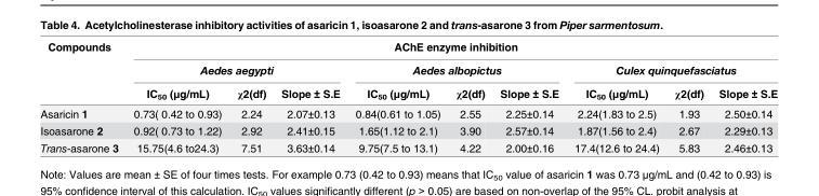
<table><thead><tr><td rowspan="3">Compounds</td><td colspan="9">AChE enzyme inhibition</td></tr><tr><td colspan="3">Aedes aegypti</td><td colspan="3">Aedes albopictus</td><td colspan="3">Culex quinquefasciatus</td></tr><tr><td>IC<sub>50</sub> (μg/mL)</td><td>χ2(df)</td><td>Slope ± S.E</td><td>IC<sub>50</sub> (μg/mL)</td><td>χ2(df)</td><td>Slope ± S.E</td><td>IC<sub>50</sub> (μg/mL)</td><td>χ2(df)</td><td>Slope ± S.E</td></tr></thead><tbody><tr><td>Asaricin 1</td><td>0.73( 0.42 to 0.93)</td><td>2.24</td><td>2.07±0.13</td><td>0.84(0.61 to 1.05)</td><td>2.55</td><td>2.25±0.14</td><td>2.24(1.83 to 2.5)</td><td>1.93</td><td>2.50±0.14</td></tr><tr><td>Isoasarone 2</td><td>0.92( 0.73 to 1.22)</td><td>2.92</td><td>2.41±0.15</td><td>1.65(1.12 to 2.1)</td><td>3.90</td><td>2.57±0.14</td><td>1.87(1.56 to 2.4)</td><td>2.67</td><td>2.29±0.13</td></tr><tr><td>Trans-asarone 3</td><td>15.75(4.6 to24.3)</td><td>7.51</td><td>3.63±0.14</td><td>9.75(7.5 to 13.1)</td><td>4.22</td><td>2.00±0.16</td><td>17.4(12.6 to 24.4)</td><td>5.83</td><td>2.46±0.13</td></tr></tbody></table>